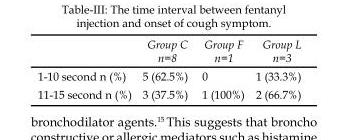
<table><thead><tr><td></td><td>Group C n=8</td><td>Group F n=1</td><td>Group L n=3</td></tr></thead><tbody><tr><td>1-10 second n (%)</td><td>5 (62.5%)</td><td>0</td><td>1 (33.3%)</td></tr><tr><td>11-15 second n (%)</td><td>3 (37.5%)</td><td>1 (100%)</td><td>2 (66.7%)</td></tr></tbody></table>